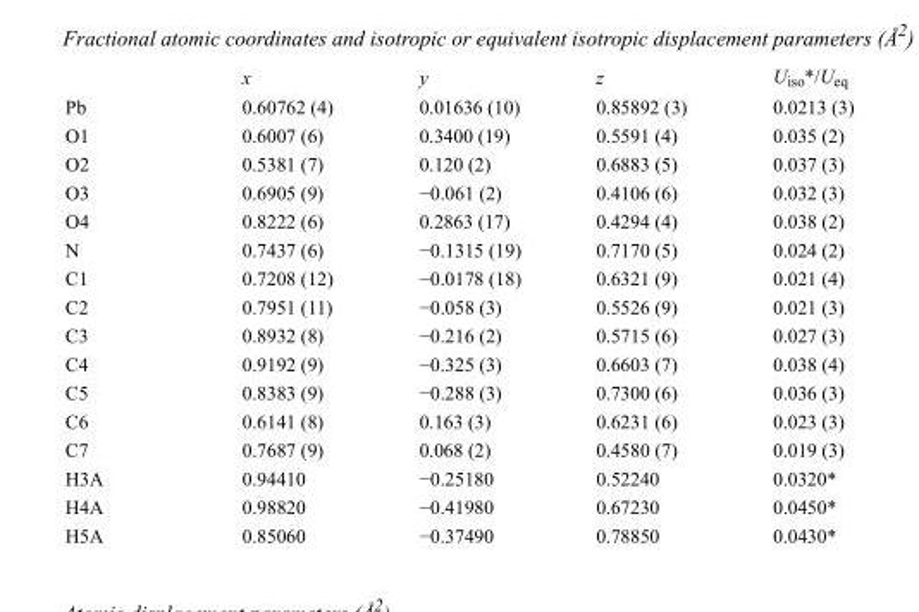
<table><thead><tr><td></td><td>x</td><td>y</td><td>z</td><td>U<sub>iso</sub>*/U<sub>eq</sub></td></tr></thead><tbody><tr><td>Pb</td><td>0.60762 (4)</td><td>0.01636 (10)</td><td>0.85892 (3)</td><td>0.0213 (3)</td></tr><tr><td>O1</td><td>0.6007 (6)</td><td>0.3400 (19)</td><td>0.5591 (4)</td><td>0.035 (2)</td></tr><tr><td>O2</td><td>0.5381 (7)</td><td>0.120 (2)</td><td>0.6883 (5)</td><td>0.037 (3)</td></tr><tr><td>O3</td><td>0.6905 (9)</td><td>−0.061 (2)</td><td>0.4106 (6)</td><td>0.032 (3)</td></tr><tr><td>O4</td><td>0.8222 (6)</td><td>0.2863 (17)</td><td>0.4294 (4)</td><td>0.038 (2)</td></tr><tr><td>N</td><td>0.7437 (6)</td><td>−0.1315 (19)</td><td>0.7170 (5)</td><td>0.024 (2)</td></tr><tr><td>C1</td><td>0.7208 (12)</td><td>−0.0178 (18)</td><td>0.6321 (9)</td><td>0.021 (4)</td></tr><tr><td>C2</td><td>0.7951 (11)</td><td>−0.058 (3)</td><td>0.5526 (9)</td><td>0.021 (3)</td></tr><tr><td>C3</td><td>0.8932 (8)</td><td>−0.216 (2)</td><td>0.5715 (6)</td><td>0.027 (3)</td></tr><tr><td>C4</td><td>0.9192 (9)</td><td>−0.325 (3)</td><td>0.6603 (7)</td><td>0.038 (4)</td></tr><tr><td>C5</td><td>0.8383 (9)</td><td>−0.288 (3)</td><td>0.7300 (6)</td><td>0.036 (3)</td></tr><tr><td>C6</td><td>0.6141 (8)</td><td>0.163 (3)</td><td>0.6231 (6)</td><td>0.023 (3)</td></tr><tr><td>C7</td><td>0.7687 (9)</td><td>0.068 (2)</td><td>0.4580 (7)</td><td>0.019 (3)</td></tr><tr><td>H3A</td><td>0.94410</td><td>−0.25180</td><td>0.52240</td><td>0.0320*</td></tr><tr><td>H4A</td><td>0.98820</td><td>−0.41980</td><td>0.67230</td><td>0.0450*</td></tr><tr><td>H5A</td><td>0.85060</td><td>−0.37490</td><td>0.78850</td><td>0.0430*</td></tr></tbody></table>